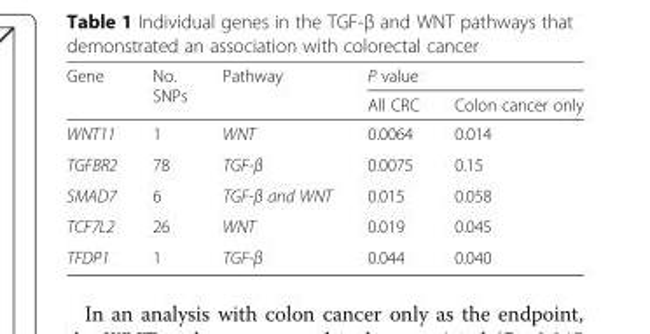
<table><thead><tr><td rowspan="2">Gene</td><td rowspan="2">No. SNPs</td><td rowspan="2">Pathway</td><td colspan="2">P value</td></tr><tr><td>All CRC</td><td>Colon cancer only</td></tr></thead><tbody><tr><td>WNT11</td><td>1</td><td>WNT</td><td>0.0064</td><td>0.014</td></tr><tr><td>TGFBR2</td><td>78</td><td>TGF-β</td><td>0.0075</td><td>0.15</td></tr><tr><td>SMAD7</td><td>6</td><td>TGF-β and WNT</td><td>0.015</td><td>0.058</td></tr><tr><td>TCF7L2</td><td>26</td><td>WNT</td><td>0.019</td><td>0.045</td></tr><tr><td>TFDP1</td><td>1</td><td>TGF-β</td><td>0.044</td><td>0.040</td></tr></tbody></table>